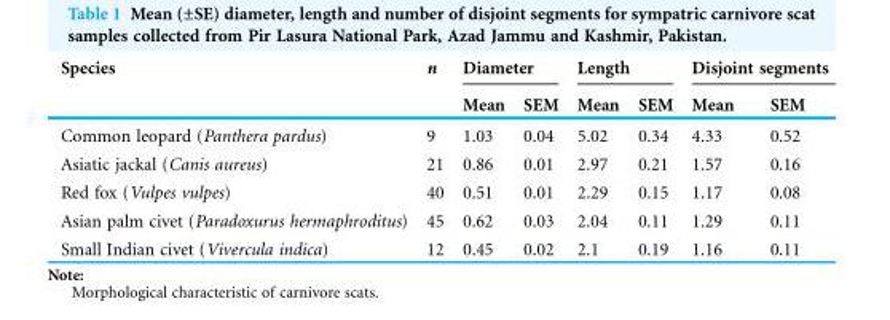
<table><thead><tr><td rowspan="2">Species</td><td rowspan="2">n</td><td colspan="2">Diameter</td><td colspan="2">Length</td><td colspan="2">Disjoint segments</td></tr><tr><td>Mean</td><td>SEM</td><td>Mean</td><td>SEM</td><td>Mean</td><td>SEM</td></tr></thead><tbody><tr><td>Common leopard (Panthera pardus)</td><td>9</td><td>1.03</td><td>0.04</td><td>5.02</td><td>0.34</td><td>4.33</td><td>0.52</td></tr><tr><td>Asiatic jackal (Canis aureus)</td><td>21</td><td>0.86</td><td>0.01</td><td>2.97</td><td>0.21</td><td>1.57</td><td>0.16</td></tr><tr><td>Red fox (Vulpes vulpes)</td><td>40</td><td>0.51</td><td>0.01</td><td>2.29</td><td>0.15</td><td>1.17</td><td>0.08</td></tr><tr><td>Asian palm civet (Paradoxurus hermaphroditus)</td><td>45</td><td>0.62</td><td>0.03</td><td>2.04</td><td>0.11</td><td>1.29</td><td>0.11</td></tr><tr><td>Small Indian civet (Vivercula indica)</td><td>12</td><td>0.45</td><td>0.02</td><td>2.1</td><td>0.19</td><td>1.16</td><td>0.11</td></tr></tbody></table>